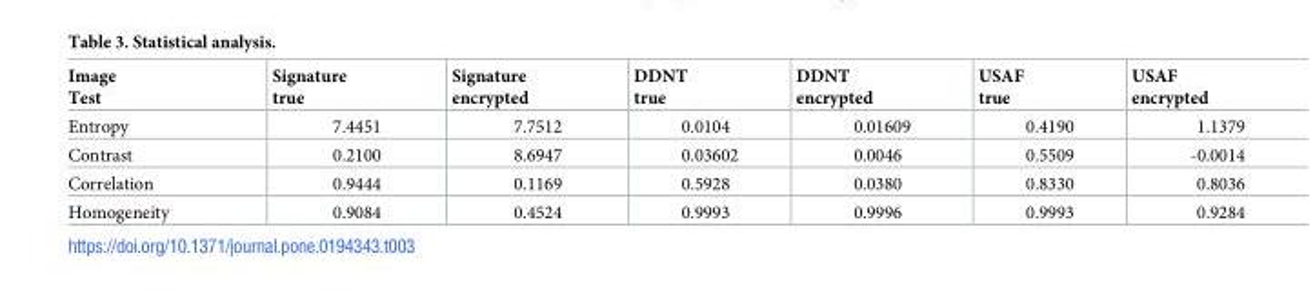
<table><thead><tr><td>Image Test</td><td>Signature true</td><td>Signature encrypted</td><td>DDNT true</td><td>DDNT encrypted</td><td>USAF true</td><td>USAF encrypted</td></tr></thead><tbody><tr><td>Entropy</td><td>7.4451</td><td>7.7512</td><td>0.0104</td><td>0.01609</td><td>0.4190</td><td>1.1379</td></tr><tr><td>Contrast</td><td>0.2100</td><td>8.6947</td><td>0.03602</td><td>0.0046</td><td>0.5509</td><td>-0.0014</td></tr><tr><td>Correlation</td><td>0.9444</td><td>0.1169</td><td>0.5928</td><td>0.0380</td><td>0.8330</td><td>0.8036</td></tr><tr><td>Homogeneity</td><td>0.9084</td><td>0.4524</td><td>0.9993</td><td>0.9996</td><td>0.9993</td><td>0.9284</td></tr></tbody></table>